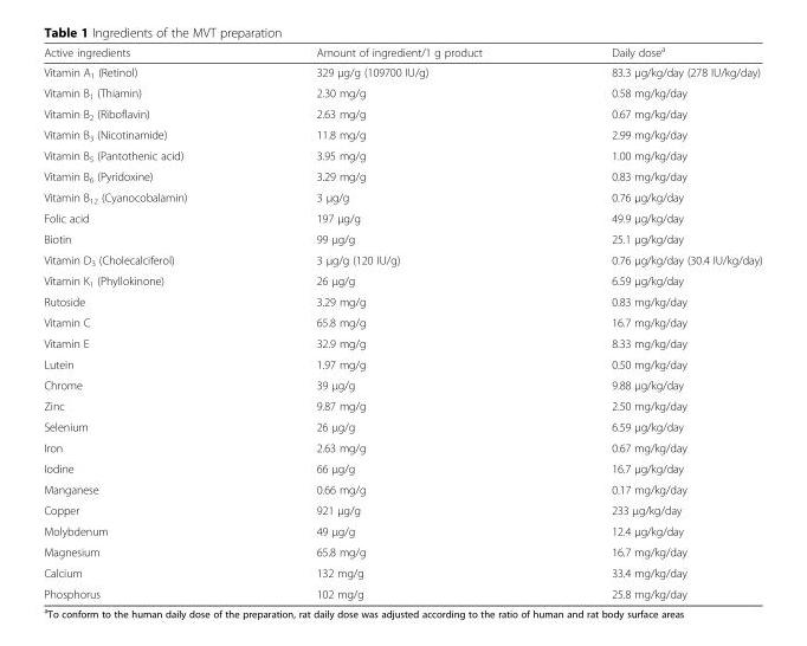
<table><thead><tr><td>Active ingredients</td><td>Amount of ingredient/1 g product</td><td>Daily dose<sup>a</sup></td></tr></thead><tbody><tr><td>Vitamin A<sub>1</sub> (Retinol)</td><td>329 μg/g (109700 IU/g)</td><td>83.3 μg/kg/day (278 IU/kg/day)</td></tr><tr><td>Vitamin B<sub>1</sub> (Thiamin)</td><td>2.30 mg/g</td><td>0.58 mg/kg/day</td></tr><tr><td>Vitamin B<sub>2</sub> (Riboflavin)</td><td>2.63 mg/g</td><td>0.67 mg/kg/day</td></tr><tr><td>Vitamin B<sub>3</sub> (Nicotinamide)</td><td>11.8 mg/g</td><td>2.99 mg/kg/day</td></tr><tr><td>Vitamin B<sub>5</sub> (Pantothenic acid)</td><td>3.95 mg/g</td><td>1.00 mg/kg/day</td></tr><tr><td>Vitamin B<sub>6</sub> (Pyridoxine)</td><td>3.29 mg/g</td><td>0.83 mg/kg/day</td></tr><tr><td>Vitamin B<sub>12</sub> (Cyanocobalamin)</td><td>3 μg/g</td><td>0.76 μg/kg/day</td></tr><tr><td>Folic acid</td><td>197 μg/g</td><td>49.9 μg/kg/day</td></tr><tr><td>Biotin</td><td>99 μg/g</td><td>25.1 μg/kg/day</td></tr><tr><td>Vitamin D<sub>3</sub> (Cholecalciferol)</td><td>3 μg/g (120 IU/g)</td><td>0.76 μg/kg/day (30.4 IU/kg/day)</td></tr><tr><td>Vitamin K<sub>1</sub> (Phyllokinone)</td><td>26 μg/g</td><td>6.59 μg/kg/day</td></tr><tr><td>Rutoside</td><td>3.29 mg/g</td><td>0.83 mg/kg/day</td></tr><tr><td>Vitamin C</td><td>65.8 mg/g</td><td>16.7 mg/kg/day</td></tr><tr><td>Vitamin E</td><td>32.9 mg/g</td><td>8.33 mg/kg/day</td></tr><tr><td>Lutein</td><td>1.97 mg/g</td><td>0.50 mg/kg/day</td></tr><tr><td>Chrome</td><td>39 μg/g</td><td>9.88 μg/kg/day</td></tr><tr><td>Zinc</td><td>9.87 mg/g</td><td>2.50 mg/kg/day</td></tr><tr><td>Selenium</td><td>26 μg/g</td><td>6.59 μg/kg/day</td></tr><tr><td>Iron</td><td>2.63 mg/g</td><td>0.67 mg/kg/day</td></tr><tr><td>Iodine</td><td>66 μg/g</td><td>16.7 μg/kg/day</td></tr><tr><td>Manganese</td><td>0.66 mg/g</td><td>0.17 mg/kg/day</td></tr><tr><td>Copper</td><td>921 μg/g</td><td>233 μg/kg/day</td></tr><tr><td>Molybdenum</td><td>49 μg/g</td><td>12.4 μg/kg/day</td></tr><tr><td>Magnesium</td><td>65.8 mg/g</td><td>16.7 mg/kg/day</td></tr><tr><td>Calcium</td><td>132 mg/g</td><td>33.4 mg/kg/day</td></tr><tr><td>Phosphorus</td><td>102 mg/g</td><td>25.8 mg/kg/day</td></tr></tbody></table>